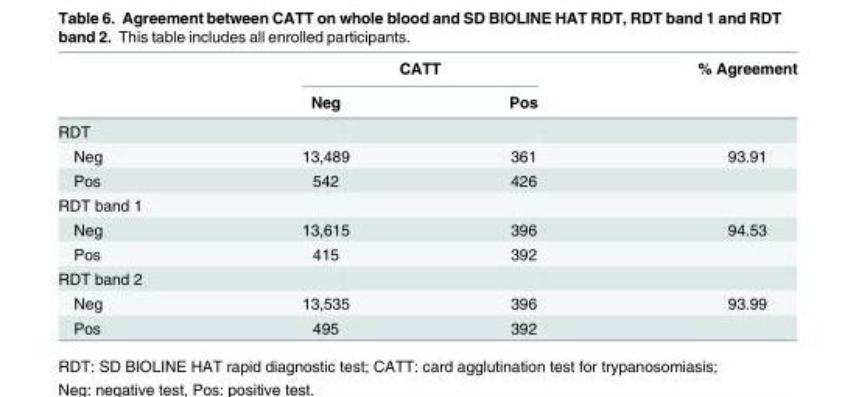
<table><thead><tr><td rowspan="2"></td><td colspan="2">CATT</td><td rowspan="2">% Agreement</td></tr><tr><td>Neg</td><td>Pos</td></tr></thead><tbody><tr><td colspan="4">RDT</td></tr><tr><td>Neg</td><td>13,489</td><td>361</td><td>93.91</td></tr><tr><td>Pos</td><td>542</td><td>426</td><td></td></tr><tr><td colspan="4">RDT band 1</td></tr><tr><td>Neg</td><td>13,615</td><td>396</td><td>94.53</td></tr><tr><td>Pos</td><td>415</td><td>392</td><td></td></tr><tr><td colspan="4">RDT band 2</td></tr><tr><td>Neg</td><td>13,535</td><td>396</td><td>93.99</td></tr><tr><td>Pos</td><td>495</td><td>392</td><td></td></tr></tbody></table>